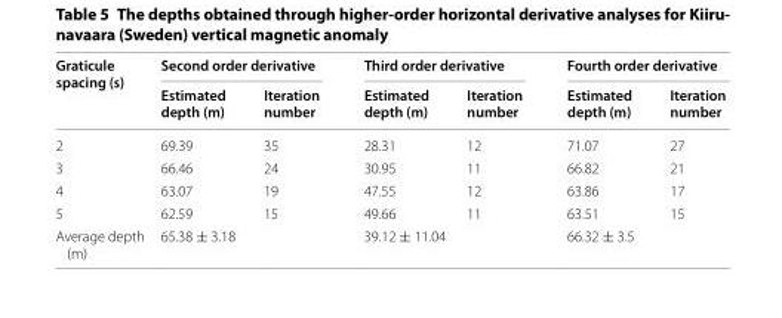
<table><thead><tr><td rowspan="2">Graticule spacing (s)</td><td colspan="2">Second order derivative</td><td colspan="2">Third order derivative</td><td colspan="2">Fourth order derivative</td></tr><tr><td>Estimated depth (m)</td><td>Iteration number</td><td>Estimated depth (m)</td><td>Iteration number</td><td>Estimated depth (m)</td><td>Iteration number</td></tr></thead><tbody><tr><td>2</td><td>69.39</td><td>35</td><td>28.31</td><td>12</td><td>71.07</td><td>27</td></tr><tr><td>3</td><td>66.46</td><td>24</td><td>30.95</td><td>11</td><td>66.82</td><td>21</td></tr><tr><td>4</td><td>63.07</td><td>19</td><td>47.55</td><td>12</td><td>63.86</td><td>17</td></tr><tr><td>5</td><td>62.59</td><td>15</td><td>49.66</td><td>11</td><td>63.51</td><td>15</td></tr><tr><td>Average depth (m)</td><td>65.38 ± 3.18</td><td></td><td>39.12 ± 11.04</td><td></td><td>66.32 ± 3.5</td><td></td></tr></tbody></table>